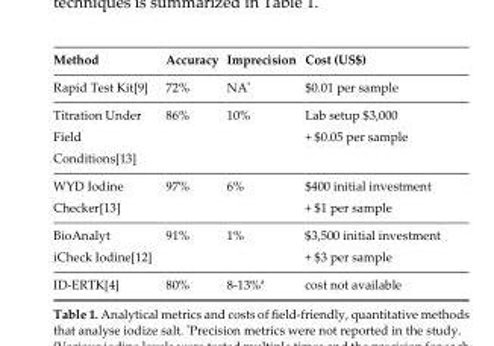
<table><thead><tr><td>Method</td><td>Accuracy</td><td>Imprecision</td><td>Cost (US$)</td></tr></thead><tbody><tr><td>Rapid Test Kit[9]</td><td>72%</td><td>NA*</td><td>$0.01 per sample</td></tr><tr><td>Titration Under Field Conditions[13]</td><td>86%</td><td>10%</td><td>Lab setup $3,000 + $0.05 per sample</td></tr><tr><td>WYD Iodine Checker[13]</td><td>97%</td><td>6%</td><td>$400 initial investment + $1 per sample</td></tr><tr><td>BioAnalyt iCheck Iodine[12]</td><td>91%</td><td>1%</td><td>$3,500 initial investment + $3 per sample</td></tr><tr><td>ID-ERTK[4]</td><td>80%</td><td>8-13%<sup>#</sup></td><td>cost not available</td></tr></tbody></table>